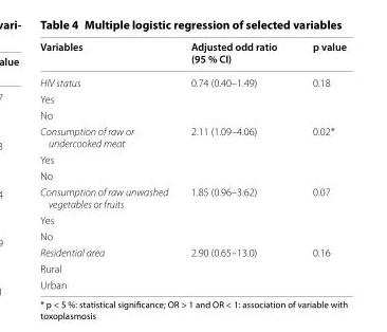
<table><thead><tr><td>Variables</td><td>Adjusted odd ratio (95 % CI)</td><td>p value</td></tr></thead><tbody><tr><td>HIV status</td><td>0.74 (0.40–1.49)</td><td rowspan="3">0.18</td></tr><tr><td colspan="2">Yes</td></tr><tr><td colspan="2">No</td></tr><tr><td>Consumption of raw or undercooked meat</td><td>2.11 (1.09–4.06)</td><td rowspan="3">0.02*</td></tr><tr><td colspan="2">Yes</td></tr><tr><td colspan="2">No</td></tr><tr><td>Consumption of raw unwashed vegetables or fruits</td><td>1.85 (0.96–3.62)</td><td rowspan="3">0.07</td></tr><tr><td colspan="2">Yes</td></tr><tr><td colspan="2">No</td></tr><tr><td>Residential area</td><td>2.90 (0.65–13.0)</td><td rowspan="3">0.16</td></tr><tr><td colspan="2">Rural</td></tr><tr><td>Urban</td><td></td></tr></tbody></table>